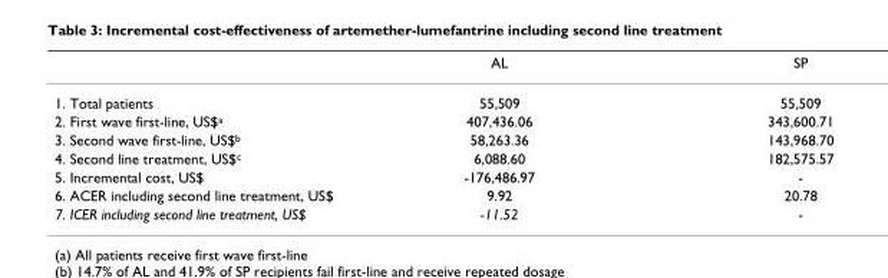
<table><thead><tr><td></td><td>AL</td><td>SP</td></tr></thead><tbody><tr><td>1. Total patients</td><td>55,509</td><td>55,509</td></tr><tr><td>2. First wave first-line, US$<sup>a</sup></td><td>407,436.06</td><td>343,600.71</td></tr><tr><td>3. Second wave first-line, US$<sup>b</sup></td><td>58,263.36</td><td>143,968.70</td></tr><tr><td>4. Second line treatment, US$<sup>c</sup></td><td>6,088.60</td><td>182,575.57</td></tr><tr><td>5. Incremental cost, US$</td><td>-176,486.97</td><td>-</td></tr><tr><td>6. ACER including second line treatment, US$</td><td>9.92</td><td>20.78</td></tr><tr><td>7. ICER including second line treatment, US$</td><td>-11.52</td><td>-</td></tr></tbody></table>